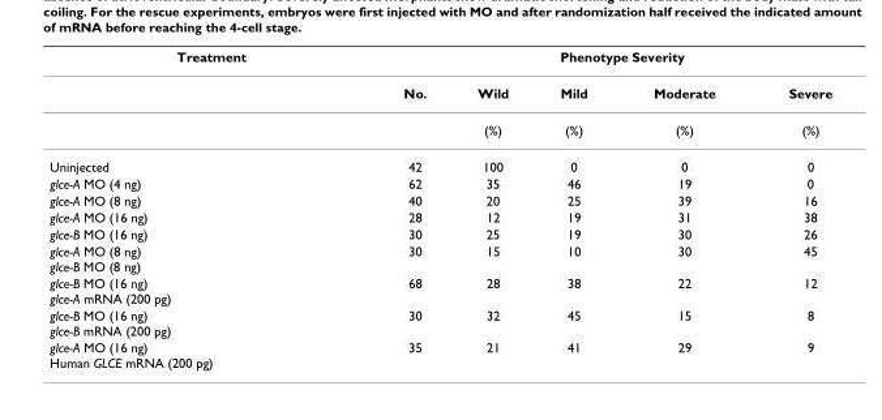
<table><thead><tr><td rowspan="2">Treatment</td><td colspan="5">Phenotype Severity</td></tr><tr><td>No.</td><td>Wild</td><td>Mild</td><td>Moderate</td><td>Severe</td></tr></thead><tbody><tr><td></td><td></td><td>(%)</td><td>(%)</td><td>(%)</td><td>(%)</td></tr><tr><td>Uninjected</td><td>42</td><td>100</td><td>0</td><td>0</td><td>0</td></tr><tr><td>glce-A MO (4 ng)</td><td>62</td><td>35</td><td>46</td><td>19</td><td>0</td></tr><tr><td>glce-A MO (8 ng)</td><td>40</td><td>20</td><td>25</td><td>39</td><td>16</td></tr><tr><td>glce-A MO (16 ng)</td><td>28</td><td>12</td><td>19</td><td>31</td><td>38</td></tr><tr><td>glce-B MO (16 ng)</td><td>30</td><td>25</td><td>19</td><td>30</td><td>26</td></tr><tr><td>glce-A MO (8 ng) glce-B MO (8 ng)</td><td>30</td><td>15</td><td>10</td><td>30</td><td>45</td></tr><tr><td>glce-B MO (16 ng) glce-A mRNA (200 pg)</td><td>68</td><td>28</td><td>38</td><td>22</td><td>12</td></tr><tr><td>glce-B MO (16 ng) glce-B mRNA (200 pg)</td><td>30</td><td>32</td><td>45</td><td>15</td><td>8</td></tr><tr><td>glce-A MO (16 ng) Human GLCE mRNA (200 pg)</td><td>35</td><td>21</td><td>41</td><td>29</td><td>9</td></tr></tbody></table>